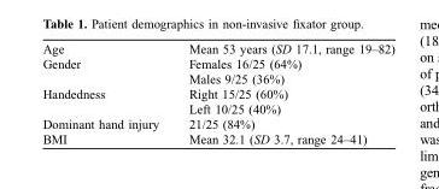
<table><tbody><tr><td>Age</td><td>Mean 53 years (SD 17.1, range 19–82)</td></tr><tr><td rowspan="2">Gender</td><td>Females 16/25 (64%)</td></tr><tr><td>Males 9/25 (36%)</td></tr><tr><td rowspan="2">Handedness</td><td>Right 15/25 (60%)</td></tr><tr><td>Left 10/25 (40%)</td></tr><tr><td>Dominant hand injury</td><td>21/25 (84%)</td></tr><tr><td>BMI</td><td>Mean 32.1 (SD 3.7, range 24–41)</td></tr></tbody></table>